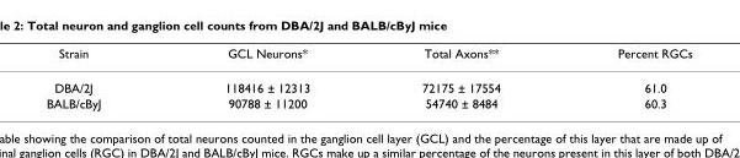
<table><thead><tr><td>Strain</td><td>GCL Neurons*</td><td>Total Axons**</td><td>Percent RGCs</td></tr></thead><tbody><tr><td>DBA/2J</td><td>118416 ± 12313</td><td>72175 ± 17554</td><td>61.0</td></tr><tr><td>BALB/cByJ</td><td>90788 ± 11200</td><td>54740 ± 8484</td><td>60.3</td></tr></tbody></table>